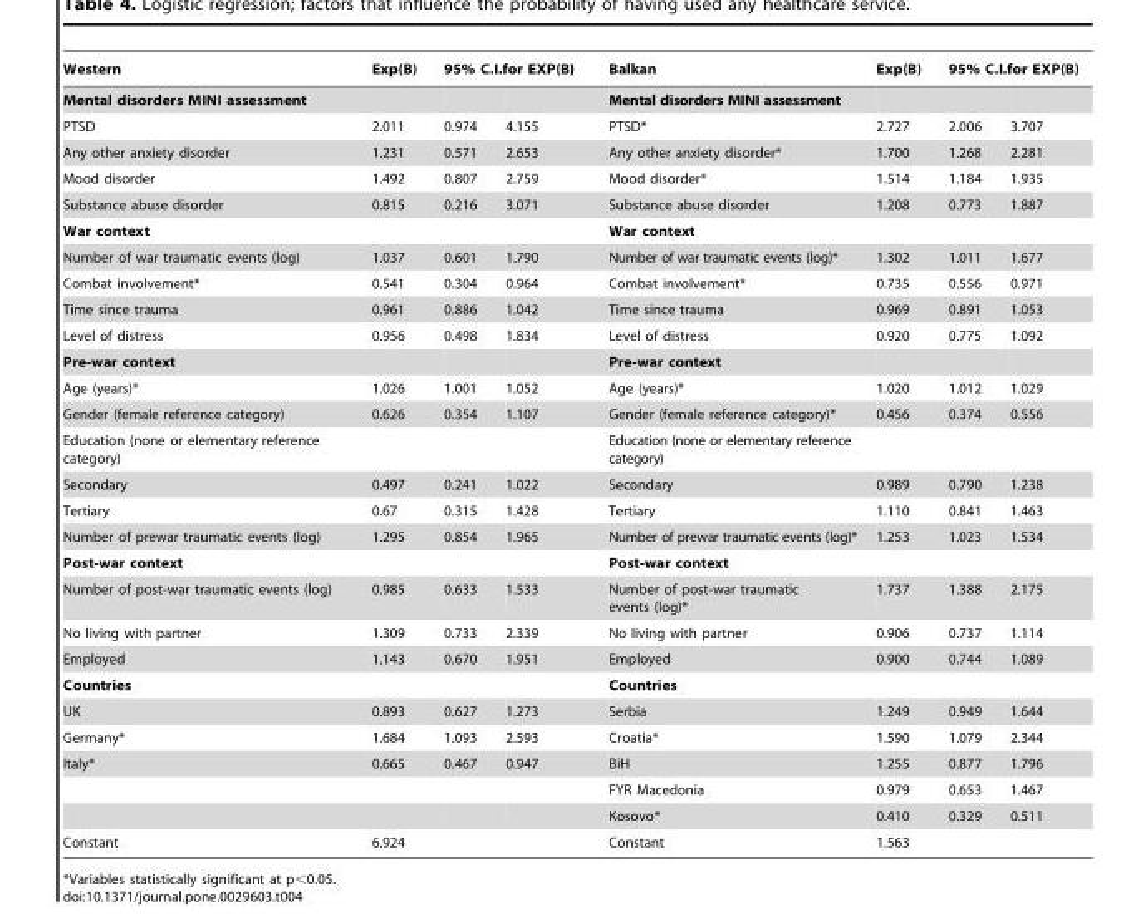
<table><thead><tr><td rowspan="2">Western Mental disorders MINI assessment</td><td rowspan="2">Exp(B)</td><td colspan="2">95% C.I.for EXP(B)</td><td rowspan="2">Balkan Mental disorders MINI assessment</td><td rowspan="2">Exp(B)</td><td colspan="2">95% C.I.for EXP(B)</td></tr><tr><td></td><td></td><td></td><td></td></tr></thead><tbody><tr><td>PTSD</td><td>2.011</td><td>0.974</td><td>4.155</td><td>PTSD*</td><td>2.727</td><td>2.006</td><td>3.707</td></tr><tr><td>Any other anxiety disorder</td><td>1.231</td><td>0.571</td><td>2.653</td><td>Any other anxiety disorder*</td><td>1.700</td><td>1.268</td><td>2.281</td></tr><tr><td>Mood disorder</td><td>1.492</td><td>0.807</td><td>2.759</td><td>Mood disorder*</td><td>1.514</td><td>1.184</td><td>1.935</td></tr><tr><td>Substance abuse disorder</td><td>0.815</td><td>0.216</td><td>3.071</td><td>Substance abuse disorder</td><td>1.208</td><td>0.773</td><td>1.887</td></tr><tr><td>War context</td><td></td><td></td><td></td><td>War context</td><td></td><td></td><td></td></tr><tr><td>Number of war traumatic events (log)</td><td>1.037</td><td>0.601</td><td>1.790</td><td>Number of war traumatic events (log)*</td><td>1.302</td><td>1.011</td><td>1.677</td></tr><tr><td>Combat involvement*</td><td>0.541</td><td>0.304</td><td>0.964</td><td>Combat involvement*</td><td>0.735</td><td>0.556</td><td>0.971</td></tr><tr><td>Time since trauma</td><td>0.961</td><td>0.886</td><td>1.042</td><td>Time since trauma</td><td>0.969</td><td>0.891</td><td>1.053</td></tr><tr><td>Level of distress</td><td>0.956</td><td>0.498</td><td>1.834</td><td>Level of distress</td><td>0.920</td><td>0.775</td><td>1.092</td></tr><tr><td>Pre-war context</td><td></td><td></td><td></td><td>Pre-war context</td><td></td><td></td><td></td></tr><tr><td>Age (years)*</td><td>1.026</td><td>1.001</td><td>1.052</td><td>Age (years)*</td><td>1.020</td><td>1.012</td><td>1.029</td></tr><tr><td>Gender (female reference category)</td><td>0.626</td><td>0.354</td><td>1.107</td><td>Gender (female reference category)*</td><td>0.456</td><td>0.374</td><td>0.556</td></tr><tr><td>Education (none or elementary reference category)</td><td></td><td></td><td></td><td>Education (none or elementary reference category)</td><td></td><td></td><td></td></tr><tr><td>Secondary</td><td>0.497</td><td>0.241</td><td>1.022</td><td>Secondary</td><td>0.989</td><td>0.790</td><td>1.238</td></tr><tr><td>Tertiary</td><td>0.67</td><td>0.315</td><td>1.428</td><td>Tertiary</td><td>1.110</td><td>0.841</td><td>1.463</td></tr><tr><td>Number of prewar traumatic events (log)</td><td>1.295</td><td>0.854</td><td>1.965</td><td>Number of prewar traumatic events (log)*</td><td>1.253</td><td>1.023</td><td>1.534</td></tr><tr><td>Post-war context</td><td></td><td></td><td></td><td>Post-war context</td><td></td><td></td><td></td></tr><tr><td>Number of post-war traumatic events (log)</td><td>0.985</td><td>0.633</td><td>1.533</td><td>Number of post-war traumatic events (log)*</td><td>1.737</td><td>1.388</td><td>2.175</td></tr><tr><td>No living with partner</td><td>1.309</td><td>0.733</td><td>2.339</td><td>No living with partner</td><td>0.906</td><td>0.737</td><td>1.114</td></tr><tr><td>Employed</td><td>1.143</td><td>0.670</td><td>1.951</td><td>Employed</td><td>0.900</td><td>0.744</td><td>1.089</td></tr><tr><td>Countries</td><td></td><td></td><td></td><td>Countries</td><td></td><td></td><td></td></tr><tr><td>UK</td><td>0.893</td><td>0.627</td><td>1.273</td><td>Serbia</td><td>1.249</td><td>0.949</td><td>1.644</td></tr><tr><td>Germany*</td><td>1.684</td><td>1.093</td><td>2.593</td><td>Croatia*</td><td>1.590</td><td>1.079</td><td>2.344</td></tr><tr><td rowspan="3">Italy*</td><td>0.665</td><td>0.467</td><td>0.947</td><td>BiH</td><td>1.255</td><td>0.877</td><td>1.796</td></tr><tr><td></td><td></td><td></td><td>FYR Macedonia</td><td>0.979</td><td>0.653</td><td>1.467</td></tr><tr><td></td><td></td><td></td><td>Kosovo*</td><td>0.410</td><td>0.329</td><td>0.511</td></tr><tr><td>Constant</td><td>6.924</td><td></td><td></td><td>Constant</td><td>1.563</td><td></td><td></td></tr></tbody></table>